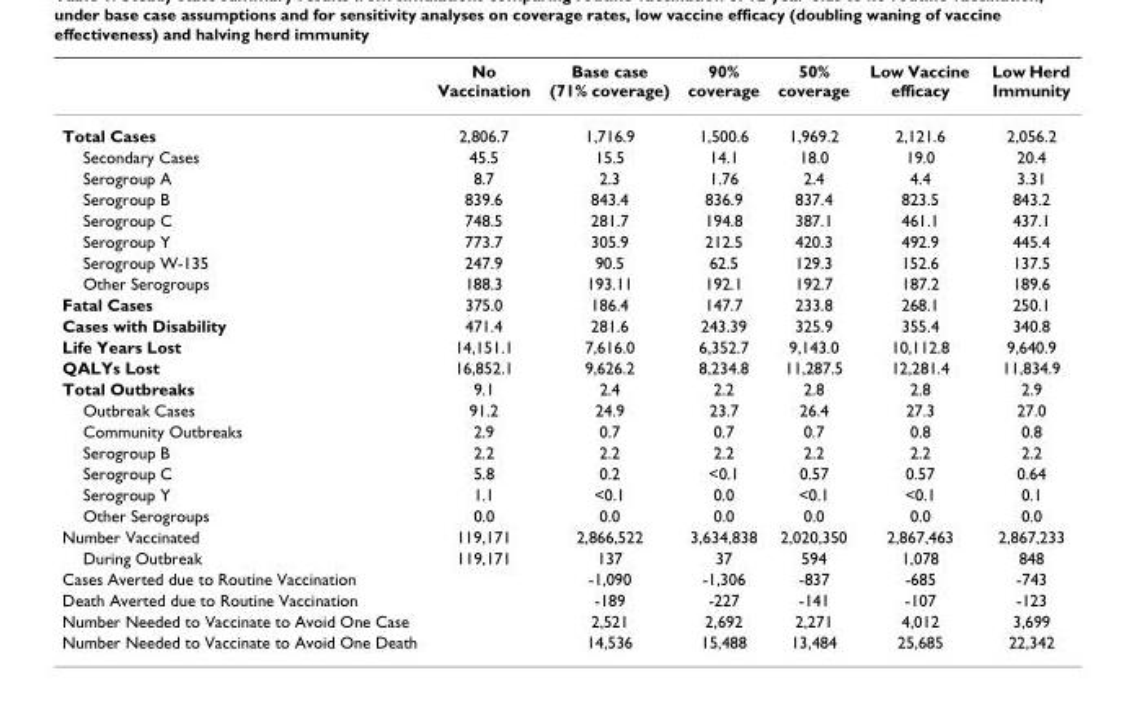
<table><thead><tr><td></td><td>No Vaccination</td><td>Base case (71% coverage)</td><td>90% coverage</td><td>50% coverage</td><td>Low Vaccine efficacy</td><td>Low Herd Immunity</td></tr></thead><tbody><tr><td>Total Cases</td><td>2,806.7</td><td>1,716.9</td><td>1,500.6</td><td>1,969.2</td><td>2,121.6</td><td>2,056.2</td></tr><tr><td>Secondary Cases</td><td>45.5</td><td>15.5</td><td>14.1</td><td>18.0</td><td>19.0</td><td>20.4</td></tr><tr><td>Serogroup A</td><td>8.7</td><td>2.3</td><td>1.76</td><td>2.4</td><td>4.4</td><td>3.31</td></tr><tr><td>Serogroup B</td><td>839.6</td><td>843.4</td><td>836.9</td><td>837.4</td><td>823.5</td><td>843.2</td></tr><tr><td>Serogroup C</td><td>748.5</td><td>281.7</td><td>194.8</td><td>387.1</td><td>461.1</td><td>437.1</td></tr><tr><td>Serogroup Y</td><td>773.7</td><td>305.9</td><td>212.5</td><td>420.3</td><td>492.9</td><td>445.4</td></tr><tr><td>Serogroup W-135</td><td>247.9</td><td>90.5</td><td>62.5</td><td>129.3</td><td>152.6</td><td>137.5</td></tr><tr><td>Other Serogroups</td><td>188.3</td><td>193.11</td><td>192.1</td><td>192.7</td><td>187.2</td><td>189.6</td></tr><tr><td>Fatal Cases</td><td>375.0</td><td>186.4</td><td>147.7</td><td>233.8</td><td>268.1</td><td>250.1</td></tr><tr><td>Cases with Disability</td><td>471.4</td><td>281.6</td><td>243.39</td><td>325.9</td><td>355.4</td><td>340.8</td></tr><tr><td>Life Years Lost</td><td>14,151.1</td><td>7,616.0</td><td>6,352.7</td><td>9,143.0</td><td>10,112.8</td><td>9,640.9</td></tr><tr><td>QALYs Lost</td><td>16,852.1</td><td>9,626.2</td><td>8,234.8</td><td>11,287.5</td><td>12,281.4</td><td>11,834.9</td></tr><tr><td>Total Outbreaks</td><td>9.1</td><td>2.4</td><td>2.2</td><td>2.8</td><td>2.8</td><td>2.9</td></tr><tr><td>Outbreak Cases</td><td>91.2</td><td>24.9</td><td>23.7</td><td>26.4</td><td>27.3</td><td>27.0</td></tr><tr><td>Community Outbreaks</td><td>2.9</td><td>0.7</td><td>0.7</td><td>0.7</td><td>0.8</td><td>0.8</td></tr><tr><td>Serogroup B</td><td>2.2</td><td>2.2</td><td>2.2</td><td>2.2</td><td>2.2</td><td>2.2</td></tr><tr><td>Serogroup C</td><td>5.8</td><td>0.2</td><td>&lt;0.1</td><td>0.57</td><td>0.57</td><td>0.64</td></tr><tr><td>Serogroup Y</td><td>1.1</td><td>&lt;0.1</td><td>0.0</td><td>&lt;0.1</td><td>&lt;0.1</td><td>0.1</td></tr><tr><td>Other Serogroups</td><td>0.0</td><td>0.0</td><td>0.0</td><td>0.0</td><td>0.0</td><td>0.0</td></tr><tr><td>Number Vaccinated</td><td>119,171</td><td>2,866,522</td><td>3,634,838</td><td>2,020,350</td><td>2,867,463</td><td>2,867,233</td></tr><tr><td>During Outbreak</td><td>119,171</td><td>137</td><td>37</td><td>594</td><td>1,078</td><td>848</td></tr><tr><td>Cases Averted due to Routine Vaccination</td><td></td><td>-1,090</td><td>-1,306</td><td>-837</td><td>-685</td><td>-743</td></tr><tr><td>Death Averted due to Routine Vaccination</td><td></td><td>-189</td><td>-227</td><td>-141</td><td>-107</td><td>-123</td></tr><tr><td>Number Needed to Vaccinate to Avoid One Case</td><td></td><td>2,521</td><td>2,692</td><td>2,271</td><td>4,012</td><td>3,699</td></tr><tr><td>Number Needed to Vaccinate to Avoid One Death</td><td></td><td>14,536</td><td>15,488</td><td>13,484</td><td>25,685</td><td>22,342</td></tr></tbody></table>